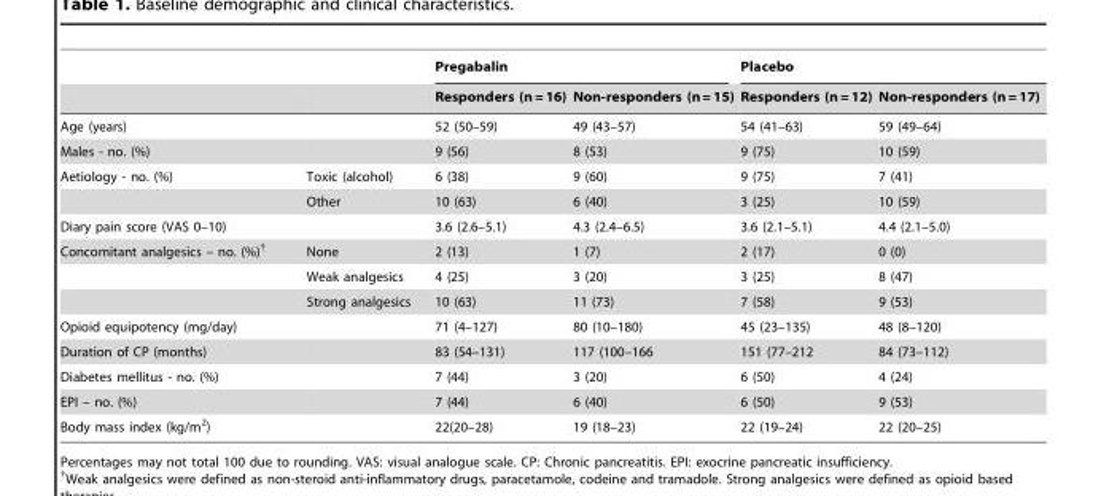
<table><thead><tr><td rowspan="2"></td><td rowspan="2"></td><td colspan="2">Pregabalin</td><td colspan="2">Placebo</td></tr><tr><td>Responders (n = 16)</td><td>Non-responders (n = 15)</td><td>Responders (n = 12)</td><td>Non-responders (n = 17)</td></tr></thead><tbody><tr><td>Age (years)</td><td></td><td>52 (50–59)</td><td>49 (43–57)</td><td>54 (41–63)</td><td>59 (49–64)</td></tr><tr><td>Males - no. (%)</td><td></td><td>9 (56)</td><td>8 (53)</td><td>9 (75)</td><td>10 (59)</td></tr><tr><td rowspan="2">Aetiology - no. (%)</td><td>Toxic (alcohol)</td><td>6 (38)</td><td>9 (60)</td><td>9 (75)</td><td>7 (41)</td></tr><tr><td>Other</td><td>10 (63)</td><td>6 (40)</td><td>3 (25)</td><td>10 (59)</td></tr><tr><td>Diary pain score (VAS 0–10)</td><td></td><td>3.6 (2.6–5.1)</td><td>4.3 (2.4–6.5)</td><td>3.6 (2.1–5.1)</td><td>4.4 (2.1–5.0)</td></tr><tr><td rowspan="3">Concomitant analgesics – no. (%)†</td><td>None</td><td>2 (13)</td><td>1 (7)</td><td>2 (17)</td><td>0 (0)</td></tr><tr><td>Weak analgesics</td><td>4 (25)</td><td>3 (20)</td><td>3 (25)</td><td>8 (47)</td></tr><tr><td>Strong analgesics</td><td>10 (63)</td><td>11 (73)</td><td>7 (58)</td><td>9 (53)</td></tr><tr><td>Opioid equipotency (mg/day)</td><td></td><td>71 (4–127)</td><td>80 (10–180)</td><td>45 (23–135)</td><td>48 (8–120)</td></tr><tr><td>Duration of CP (months)</td><td></td><td>83 (54–131)</td><td>117 (100–166</td><td>151 (77–212</td><td>84 (73–112)</td></tr><tr><td>Diabetes mellitus - no. (%)</td><td></td><td>7 (44)</td><td>3 (20)</td><td>6 (50)</td><td>4 (24)</td></tr><tr><td>EPI – no. (%)</td><td></td><td>7 (44)</td><td>6 (40)</td><td>6 (50)</td><td>9 (53)</td></tr><tr><td>Body mass index (kg/m<sup>2</sup>)</td><td></td><td>22(20–28)</td><td>19 (18–23)</td><td>22 (19–24)</td><td>22 (20–25)</td></tr></tbody></table>